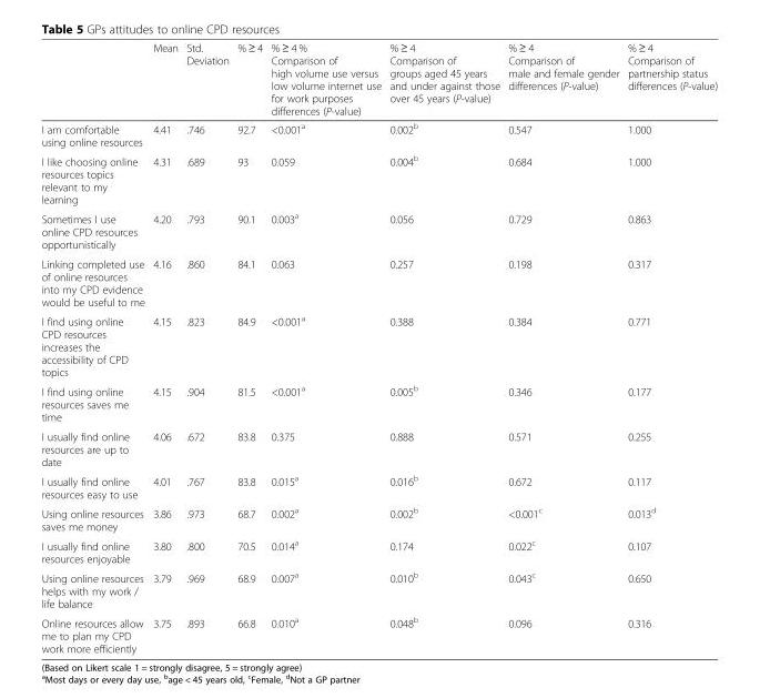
<table><thead><tr><td></td><td>Mean</td><td>Std. Deviation</td><td>% ≥ 4</td><td>% ≥ 4 % Comparison of high volume use versus low volume internet use for work purposes differences (P-value)</td><td>% ≥ 4 Comparison of groups aged 45 years and under against those over 45 years (P-value)</td><td>% ≥ 4 Comparison of male and female gender differences (P-value)</td><td>% ≥ 4 Comparison of partnership status differences (P-value)</td></tr></thead><tbody><tr><td>I am comfortable using online resources</td><td>4.41</td><td>.746</td><td>92.7</td><td>&lt;0.001<sup>a</sup></td><td>0.002<sup>b</sup></td><td>0.547</td><td>1.000</td></tr><tr><td>I like choosing online resources topics relevant to my learning</td><td>4.31</td><td>.689</td><td>93</td><td>0.059</td><td>0.004<sup>b</sup></td><td>0.684</td><td>1.000</td></tr><tr><td>Sometimes I use online CPD resources opportunistically</td><td>4.20</td><td>.793</td><td>90.1</td><td>0.003<sup>a</sup></td><td>0.056</td><td>0.729</td><td>0.863</td></tr><tr><td>Linking completed use of online resources into my CPD evidence would be useful to me</td><td>4.16</td><td>.860</td><td>84.1</td><td>0.063</td><td>0.257</td><td>0.198</td><td>0.317</td></tr><tr><td>I find using online CPD resources increases the accessibility of CPD topics</td><td>4.15</td><td>.823</td><td>84.9</td><td>&lt;0.001<sup>a</sup></td><td>0.388</td><td>0.384</td><td>0.771</td></tr><tr><td>I find using online resources saves me time</td><td>4.15</td><td>.904</td><td>81.5</td><td>&lt;0.001<sup>a</sup></td><td>0.005<sup>b</sup></td><td>0.346</td><td>0.177</td></tr><tr><td>I usually find online resources are up to date</td><td>4.06</td><td>.672</td><td>83.8</td><td>0.375</td><td>0.888</td><td>0.571</td><td>0.255</td></tr><tr><td>I usually find online resources easy to use</td><td>4.01</td><td>.767</td><td>83.8</td><td>0.015<sup>a</sup></td><td>0.016<sup>b</sup></td><td>0.672</td><td>0.117</td></tr><tr><td>Using online resources saves me money</td><td>3.86</td><td>.973</td><td>68.7</td><td>0.002<sup>a</sup></td><td>0.002<sup>b</sup></td><td>&lt;0.001<sup>c</sup></td><td>0.013<sup>d</sup></td></tr><tr><td>I usually find online resources enjoyable</td><td>3.80</td><td>.800</td><td>70.5</td><td>0.014<sup>a</sup></td><td>0.174</td><td>0.022<sup>c</sup></td><td>0.107</td></tr><tr><td>Using online resources helps with my work / life balance</td><td>3.79</td><td>.969</td><td>68.9</td><td>0.007<sup>a</sup></td><td>0.010<sup>b</sup></td><td>0.043<sup>c</sup></td><td>0.650</td></tr><tr><td>Online resources allow me to plan my CPD work more efficiently</td><td>3.75</td><td>.893</td><td>66.8</td><td>0.010<sup>a</sup></td><td>0.048<sup>b</sup></td><td>0.096</td><td>0.316</td></tr></tbody></table>